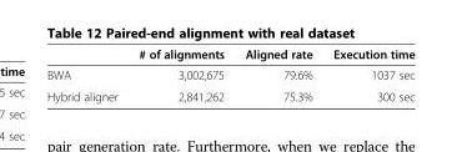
<table><thead><tr><td></td><td># of alignments</td><td>Aligned rate</td><td>Execution time</td></tr></thead><tbody><tr><td>BWA</td><td>3,002,675</td><td>79.6%</td><td>1037 sec</td></tr><tr><td>Hybrid aligner</td><td>2,841,262</td><td>75.3%</td><td>300 sec</td></tr></tbody></table>